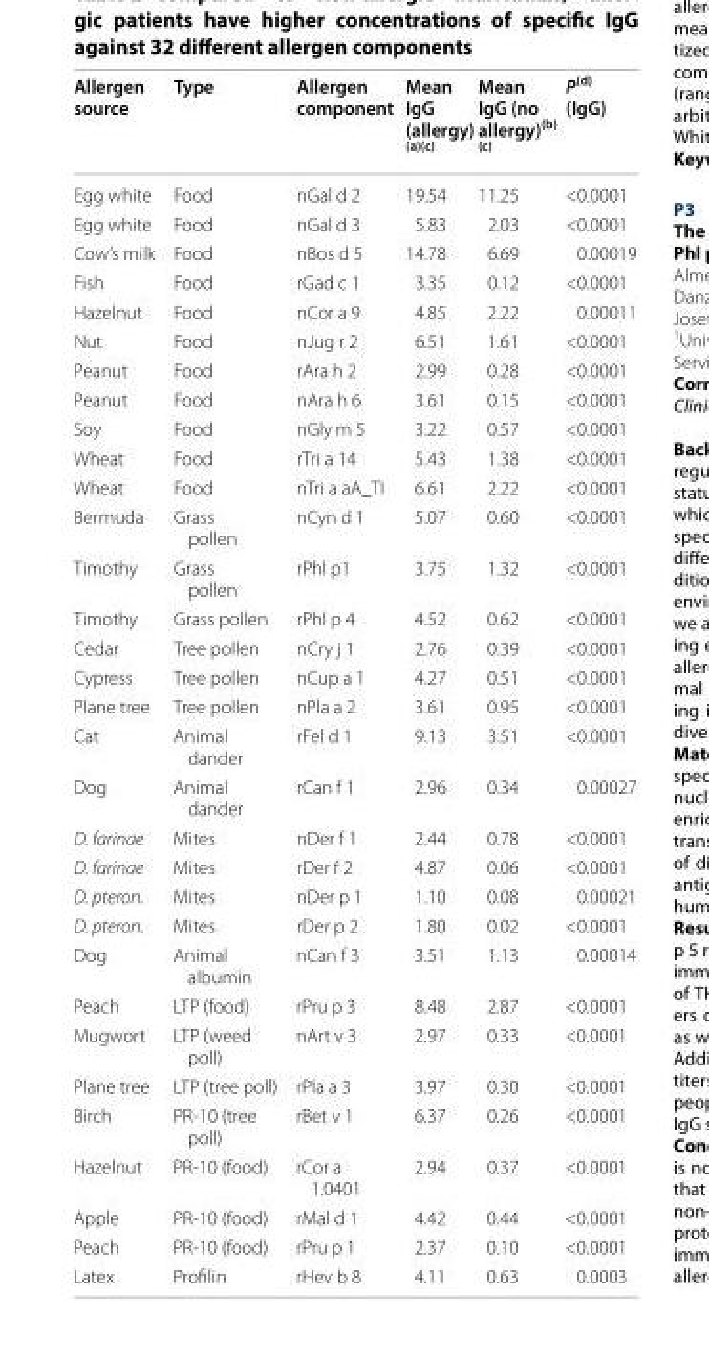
<table><thead><tr><td>Allergen source</td><td>Type</td><td>Allergen component</td><td>Mean IgG (allergy) <sup>(a)(c)</sup></td><td>Mean IgG (no allergy)<sup>(b) (c)</sup></td><td>P<sup>(d)</sup> (IgG)</td></tr></thead><tbody><tr><td>Egg white</td><td>Food</td><td>nGal d 2</td><td>19.54</td><td>11.25</td><td>&lt;0.0001</td></tr><tr><td>Egg white</td><td>Food</td><td>nGal d 3</td><td>5.83</td><td>2.03</td><td>&lt;0.0001</td></tr><tr><td>Cow’s milk</td><td>Food</td><td>nBos d 5</td><td>14.78</td><td>6.69</td><td>0.00019</td></tr><tr><td>Fish</td><td>Food</td><td>rGad c 1</td><td>3.35</td><td>0.12</td><td>&lt;0.0001</td></tr><tr><td>Hazelnut</td><td>Food</td><td>nCor a 9</td><td>4.85</td><td>2.22</td><td>0.00011</td></tr><tr><td>Nut</td><td>Food</td><td>nJug r 2</td><td>6.51</td><td>1.61</td><td>&lt;0.0001</td></tr><tr><td>Peanut</td><td>Food</td><td>rAra h 2</td><td>2.99</td><td>0.28</td><td>&lt;0.0001</td></tr><tr><td>Peanut</td><td>Food</td><td>nAra h 6</td><td>3.61</td><td>0.15</td><td>&lt;0.0001</td></tr><tr><td>Soy</td><td>Food</td><td>nGly m 5</td><td>3.22</td><td>0.57</td><td>&lt;0.0001</td></tr><tr><td>Wheat</td><td>Food</td><td>rTri a 14</td><td>5.43</td><td>1.38</td><td>&lt;0.0001</td></tr><tr><td>Wheat</td><td>Food</td><td>nTri a aA_TI</td><td>6.61</td><td>2.22</td><td>&lt;0.0001</td></tr><tr><td>Bermuda</td><td>Grass pollen</td><td>nCyn d 1</td><td>5.07</td><td>0.60</td><td>&lt;0.0001</td></tr><tr><td>Timothy</td><td>Grass pollen</td><td>rPhl p1</td><td>3.75</td><td>1.32</td><td>&lt;0.0001</td></tr><tr><td>Timothy</td><td>Grass pollen</td><td>rPhl p 4</td><td>4.52</td><td>0.62</td><td>&lt;0.0001</td></tr><tr><td>Cedar</td><td>Tree pollen</td><td>nCry j 1</td><td>2.76</td><td>0.39</td><td>&lt;0.0001</td></tr><tr><td>Cypress</td><td>Tree pollen</td><td>nCup a 1</td><td>4.27</td><td>0.51</td><td>&lt;0.0001</td></tr><tr><td>Plane tree</td><td>Tree pollen</td><td>nPla a 2</td><td>3.61</td><td>0.95</td><td>&lt;0.0001</td></tr><tr><td>Cat</td><td>Animal dander</td><td>rFel d 1</td><td>9.13</td><td>3.51</td><td>&lt;0.0001</td></tr><tr><td>Dog</td><td>Animal dander</td><td>rCan f 1</td><td>2.96</td><td>0.34</td><td>0.00027</td></tr><tr><td>D. farinae</td><td>Mites</td><td>nDer f 1</td><td>2.44</td><td>0.78</td><td>&lt;0.0001</td></tr><tr><td>D. farinae</td><td>Mites</td><td>rDer f 2</td><td>4.87</td><td>0.06</td><td>&lt;0.0001</td></tr><tr><td>D. pteron.</td><td>Mites</td><td>nDer p 1</td><td>1.10</td><td>0.08</td><td>0.00021</td></tr><tr><td>D. pteron.</td><td>Mites</td><td>rDer p 2</td><td>1.80</td><td>0.02</td><td>&lt;0.0001</td></tr><tr><td>Dog</td><td>Animal albumin</td><td>nCan f 3</td><td>3.51</td><td>1.13</td><td>0.00014</td></tr><tr><td>Peach</td><td>LTP (food)</td><td>rPru p 3</td><td>8.48</td><td>2.87</td><td>&lt;0.0001</td></tr><tr><td>Mugwort</td><td>LTP (weed poll)</td><td>nArt v 3</td><td>2.97</td><td>0.33</td><td>&lt;0.0001</td></tr><tr><td>Plane tree</td><td>LTP (tree poll)</td><td>rPla a 3</td><td>3.97</td><td>0.30</td><td>&lt;0.0001</td></tr><tr><td>Birch</td><td>PR‑10 (tree poll)</td><td>rBet v 1</td><td>6.37</td><td>0.26</td><td>&lt;0.0001</td></tr><tr><td>Hazelnut</td><td>PR‑10 (food)</td><td>rCor a 1.0401</td><td>2.94</td><td>0.37</td><td>&lt;0.0001</td></tr><tr><td>Apple</td><td>PR‑10 (food)</td><td>rMal d 1</td><td>4.42</td><td>0.44</td><td>&lt;0.0001</td></tr><tr><td>Peach</td><td>PR‑10 (food)</td><td>rPru p 1</td><td>2.37</td><td>0.10</td><td>&lt;0.0001</td></tr><tr><td>Latex</td><td>Profilin</td><td>rHev b 8</td><td>4.11</td><td>0.63</td><td>0.0003</td></tr></tbody></table>